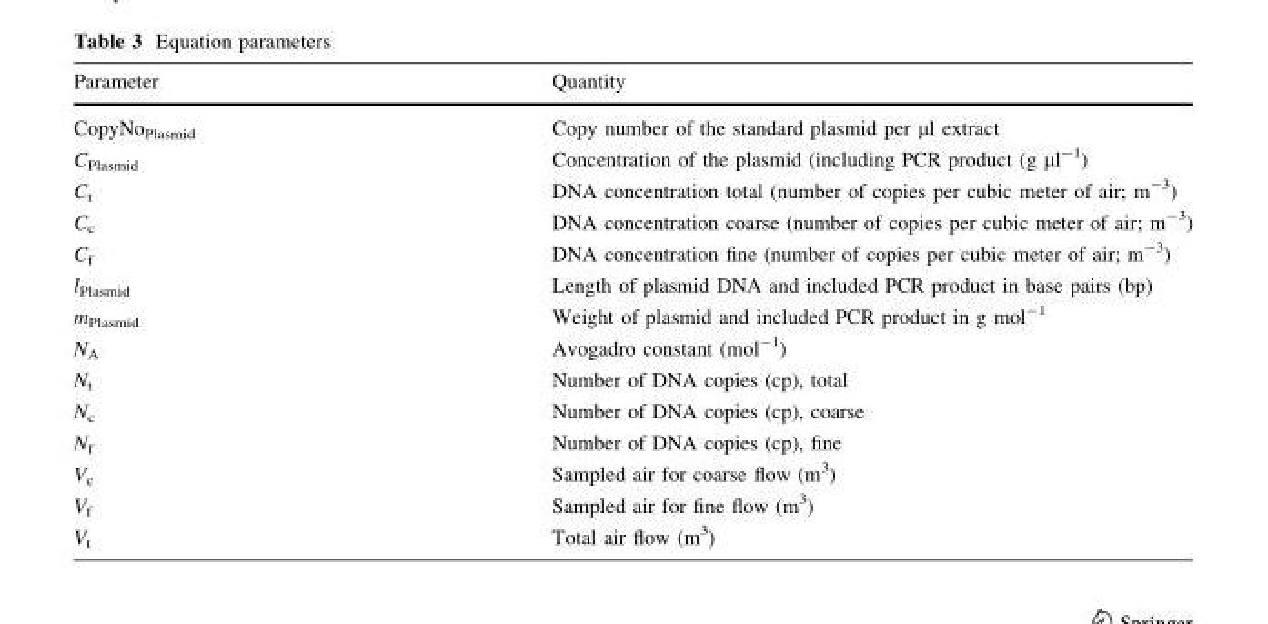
<table><thead><tr><td>Parameter</td><td>Quantity</td></tr></thead><tbody><tr><td>CopyNo<sub>Plasmid</sub></td><td>Copy number of the standard plasmid per µl extract</td></tr><tr><td>C<sub>Plasmid</sub></td><td>Concentration of the plasmid (including PCR product (g µl<sup>-1</sup>)</td></tr><tr><td>C<sub>t</sub></td><td>DNA concentration total (number of copies per cubic meter of air; m<sup>-3</sup>)</td></tr><tr><td>C<sub>c</sub></td><td>DNA concentration coarse (number of copies per cubic meter of air; m<sup>-3</sup>)</td></tr><tr><td>C<sub>f</sub></td><td>DNA concentration fine (number of copies per cubic meter of air; m<sup>-3</sup>)</td></tr><tr><td>l<sub>Plasmid</sub></td><td>Length of plasmid DNA and included PCR product in base pairs (bp)</td></tr><tr><td>m<sub>Plasmid</sub></td><td>Weight of plasmid and included PCR product in g mol<sup>-1</sup></td></tr><tr><td>N<sub>A</sub></td><td>Avogadro constant (mol<sup>-1</sup>)</td></tr><tr><td>N<sub>t</sub></td><td>Number of DNA copies (cp), total</td></tr><tr><td>N<sub>c</sub></td><td>Number of DNA copies (cp), coarse</td></tr><tr><td>N<sub>f</sub></td><td>Number of DNA copies (cp), fine</td></tr><tr><td>V<sub>c</sub></td><td>Sampled air for coarse flow (m<sup>3</sup>)</td></tr><tr><td>V<sub>f</sub></td><td>Sampled air for fine flow (m<sup>3</sup>)</td></tr><tr><td>V<sub>t</sub></td><td>Total air flow (m<sup>3</sup>)</td></tr></tbody></table>